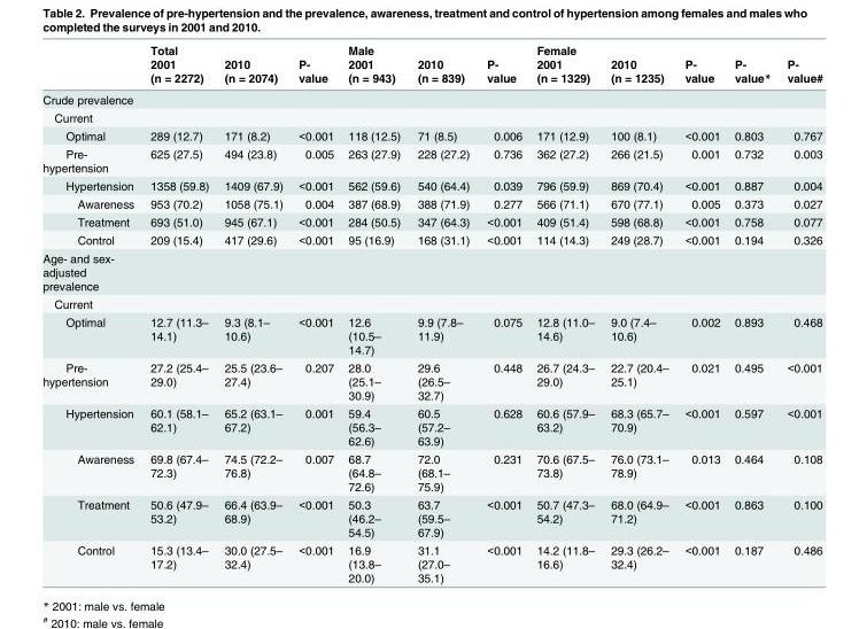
<table><thead><tr><td rowspan="2"></td><td rowspan="2">Total 2001 (n = 2272)</td><td rowspan="2">2010 (n = 2074)</td><td rowspan="2">P- value</td><td rowspan="2">Male 2001 (n = 943)</td><td rowspan="2">2010 (n = 839)</td><td rowspan="2">P- value</td><td rowspan="2">Female 2001 (n = 1329)</td><td rowspan="2">2010 (n = 1235)</td><td rowspan="2">P- value</td><td rowspan="2">P- value*</td><td rowspan="2">P- value#</td></tr><tr></tr></thead><tbody><tr><td colspan="12">Crude prevalence</td></tr><tr><td colspan="12">Current</td></tr><tr><td>Optimal</td><td>289 (12.7)</td><td>171 (8.2)</td><td>&lt;0.001</td><td>118 (12.5)</td><td>71 (8.5)</td><td>0.006</td><td>171 (12.9)</td><td>100 (8.1)</td><td>&lt;0.001</td><td>0.803</td><td>0.767</td></tr><tr><td>Pre- hypertension</td><td>625 (27.5)</td><td>494 (23.8)</td><td>0.005</td><td>263 (27.9)</td><td>228 (27.2)</td><td>0.736</td><td>362 (27.2)</td><td>266 (21.5)</td><td>0.001</td><td>0.732</td><td>0.003</td></tr><tr><td>Hypertension</td><td>1358 (59.8)</td><td>1409 (67.9)</td><td>&lt;0.001</td><td>562 (59.6)</td><td>540 (64.4)</td><td>0.039</td><td>796 (59.9)</td><td>869 (70.4)</td><td>&lt;0.001</td><td>0.887</td><td>0.004</td></tr><tr><td>Awareness</td><td>953 (70.2)</td><td>1058 (75.1)</td><td>0.004</td><td>387 (68.9)</td><td>388 (71.9)</td><td>0.277</td><td>566 (71.1)</td><td>670 (77.1)</td><td>0.005</td><td>0.373</td><td>0.027</td></tr><tr><td>Treatment</td><td>693 (51.0)</td><td>945 (67.1)</td><td>&lt;0.001</td><td>284 (50.5)</td><td>347 (64.3)</td><td>&lt;0.001</td><td>409 (51.4)</td><td>598 (68.8)</td><td>&lt;0.001</td><td>0.758</td><td>0.077</td></tr><tr><td>Control</td><td>209 (15.4)</td><td>417 (29.6)</td><td>&lt;0.001</td><td>95 (16.9)</td><td>168 (31.1)</td><td>&lt;0.001</td><td>114 (14.3)</td><td>249 (28.7)</td><td>&lt;0.001</td><td>0.194</td><td>0.326</td></tr><tr><td colspan="12">Age- and sex- adjusted prevalence</td></tr><tr><td colspan="12">Current</td></tr><tr><td>Optimal</td><td>12.7 (11.3– 14.1)</td><td>9.3 (8.1– 10.6)</td><td>&lt;0.001</td><td>12.6 (10.5– 14.7)</td><td>9.9 (7.8– 11.9)</td><td>0.075</td><td>12.8 (11.0– 14.6)</td><td>9.0 (7.4– 10.6)</td><td>0.002</td><td>0.893</td><td>0.468</td></tr><tr><td>Pre- hypertension</td><td>27.2 (25.4– 29.0)</td><td>25.5 (23.6– 27.4)</td><td>0.207</td><td>28.0 (25.1– 30.9)</td><td>29.6 (26.5– 32.7)</td><td>0.448</td><td>26.7 (24.3– 29.0)</td><td>22.7 (20.4– 25.1)</td><td>0.021</td><td>0.495</td><td>&lt;0.001</td></tr><tr><td>Hypertension</td><td>60.1 (58.1– 62.1)</td><td>65.2 (63.1– 67.2)</td><td>0.001</td><td>59.4 (56.3– 62.6)</td><td>60.5 (57.2– 63.9)</td><td>0.628</td><td>60.6 (57.9– 63.2)</td><td>68.3 (65.7– 70.9)</td><td>&lt;0.001</td><td>0.597</td><td>&lt;0.001</td></tr><tr><td>Awareness</td><td>69.8 (67.4– 72.3)</td><td>74.5 (72.2– 76.8)</td><td>0.007</td><td>68.7 (64.8– 72.6)</td><td>72.0 (68.1– 75.9)</td><td>0.231</td><td>70.6 (67.5– 73.8)</td><td>76.0 (73.1– 78.9)</td><td>0.013</td><td>0.464</td><td>0.108</td></tr><tr><td>Treatment</td><td>50.6 (47.9– 53.2)</td><td>66.4 (63.9– 68.9)</td><td>&lt;0.001</td><td>50.3 (46.2– 54.5)</td><td>63.7 (59.5– 67.9)</td><td>&lt;0.001</td><td>50.7 (47.3– 54.2)</td><td>68.0 (64.9– 71.2)</td><td>&lt;0.001</td><td>0.863</td><td>0.100</td></tr><tr><td>Control</td><td>15.3 (13.4– 17.2)</td><td>30.0 (27.5– 32.4)</td><td>&lt;0.001</td><td>16.9 (13.8– 20.0)</td><td>31.1 (27.0– 35.1)</td><td>&lt;0.001</td><td>14.2 (11.8– 16.6)</td><td>29.3 (26.2– 32.4)</td><td>&lt;0.001</td><td>0.187</td><td>0.486</td></tr></tbody></table>